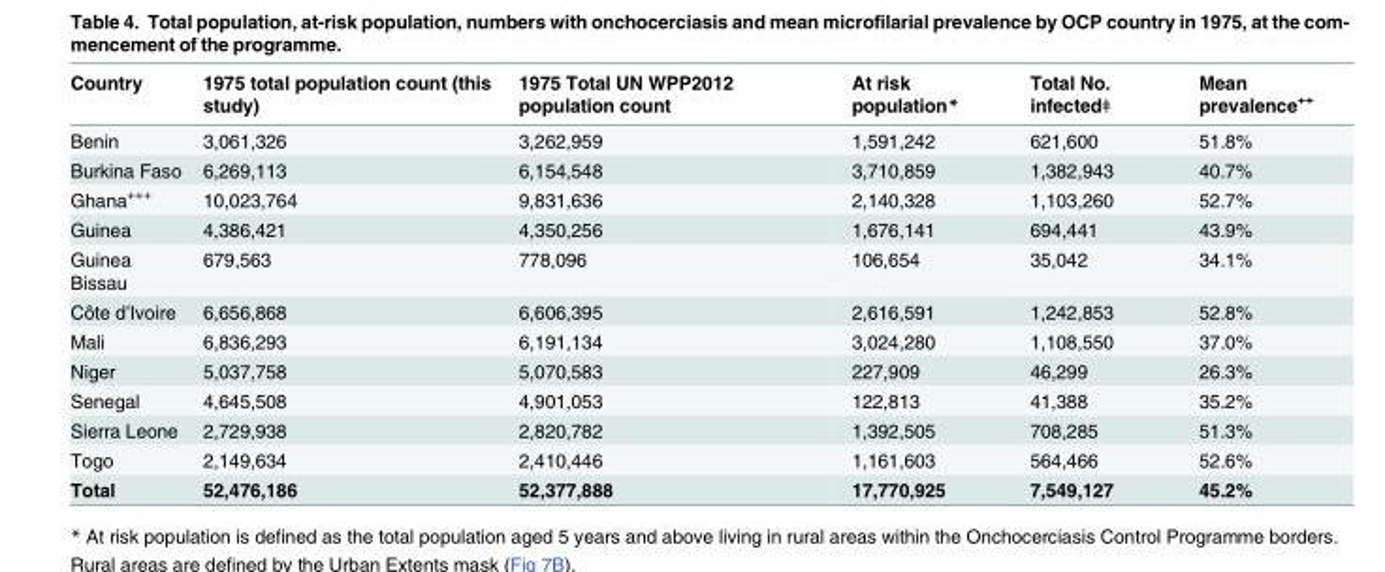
<table><thead><tr><td>Country</td><td>1975 total population count (this study)</td><td>1975 Total UN WPP2012 population count</td><td>At risk population*</td><td>Total No. infectedǂ</td><td>Mean prevalence<sup>++</sup></td></tr></thead><tbody><tr><td>Benin</td><td>3,061,326</td><td>3,262,959</td><td>1,591,242</td><td>621,600</td><td>51.8%</td></tr><tr><td>Burkina Faso</td><td>6,269,113</td><td>6,154,548</td><td>3,710,859</td><td>1,382,943</td><td>40.7%</td></tr><tr><td>Ghana<sup>+++</sup></td><td>10,023,764</td><td>9,831,636</td><td>2,140,328</td><td>1,103,260</td><td>52.7%</td></tr><tr><td>Guinea</td><td>4,386,421</td><td>4,350,256</td><td>1,676,141</td><td>694,441</td><td>43.9%</td></tr><tr><td>Guinea Bissau</td><td>679,563</td><td>778,096</td><td>106,654</td><td>35,042</td><td>34.1%</td></tr><tr><td>Côte d’Ivoire</td><td>6,656,868</td><td>6,606,395</td><td>2,616,591</td><td>1,242,853</td><td>52.8%</td></tr><tr><td>Mali</td><td>6,836,293</td><td>6,191,134</td><td>3,024,280</td><td>1,108,550</td><td>37.0%</td></tr><tr><td>Niger</td><td>5,037,758</td><td>5,070,583</td><td>227,909</td><td>46,299</td><td>26.3%</td></tr><tr><td>Senegal</td><td>4,645,508</td><td>4,901,053</td><td>122,813</td><td>41,388</td><td>35.2%</td></tr><tr><td>Sierra Leone</td><td>2,729,938</td><td>2,820,782</td><td>1,392,505</td><td>708,285</td><td>51.3%</td></tr><tr><td>Togo</td><td>2,149,634</td><td>2,410,446</td><td>1,161,603</td><td>564,466</td><td>52.6%</td></tr><tr><td>Total</td><td>52,476,186</td><td>52,377,888</td><td>17,770,925</td><td>7,549,127</td><td>45.2%</td></tr></tbody></table>